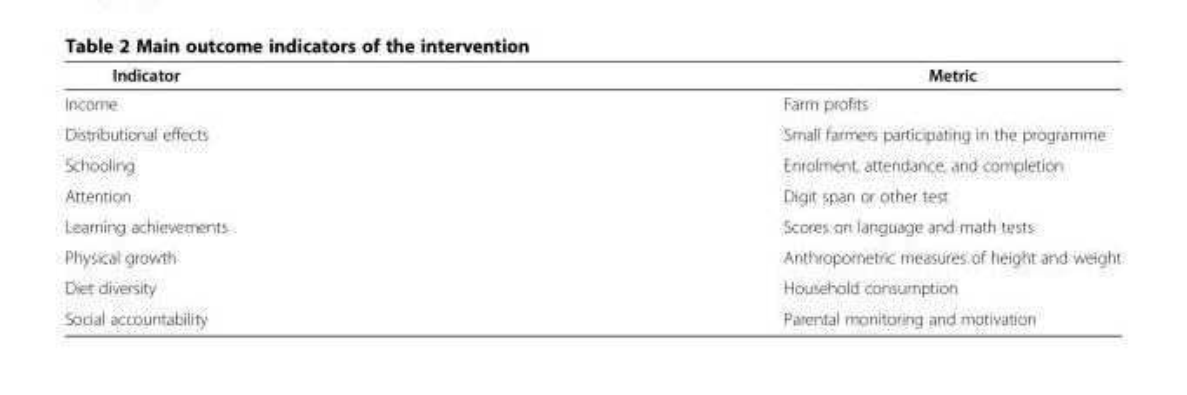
<table><thead><tr><td>Indicator</td><td>Metric</td></tr></thead><tbody><tr><td>Income</td><td>Farm profits</td></tr><tr><td>Distributional effects</td><td>Small farmers participating in the programme</td></tr><tr><td>Schooling</td><td>Enrolment, attendance, and completion</td></tr><tr><td>Attention</td><td>Digit span or other test</td></tr><tr><td>Learning achievements</td><td>Scores on language and math tests</td></tr><tr><td>Physical growth</td><td>Anthropometric measures of height and weight</td></tr><tr><td>Diet diversity</td><td>Household consumption</td></tr><tr><td>Social accountability</td><td>Parental monitoring and motivation</td></tr></tbody></table>